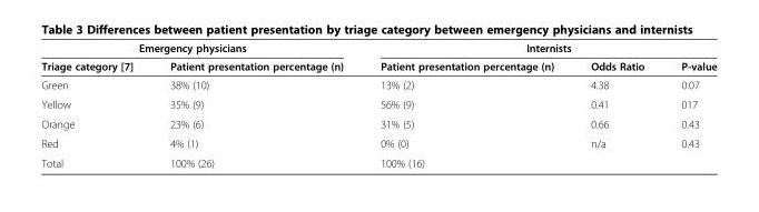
<table><thead><tr><td colspan="2">Emergency physicians</td><td colspan="3">Internists</td></tr><tr><td>Triage category [7]</td><td>Patient presentation percentage (n)</td><td>Patient presentation percentage (n)</td><td>Odds Ratio</td><td>P-value</td></tr></thead><tbody><tr><td>Green</td><td>38% (10)</td><td>13% (2)</td><td>4.38</td><td>0.07</td></tr><tr><td>Yellow</td><td>35% (9)</td><td>56% (9)</td><td>0.41</td><td>017</td></tr><tr><td>Orange</td><td>23% (6)</td><td>31% (5)</td><td>0.66</td><td>0.43</td></tr><tr><td>Red</td><td>4% (1)</td><td>0% (0)</td><td>n/a</td><td>0.43</td></tr><tr><td>Total</td><td>100% (26)</td><td>100% (16)</td><td></td><td></td></tr></tbody></table>